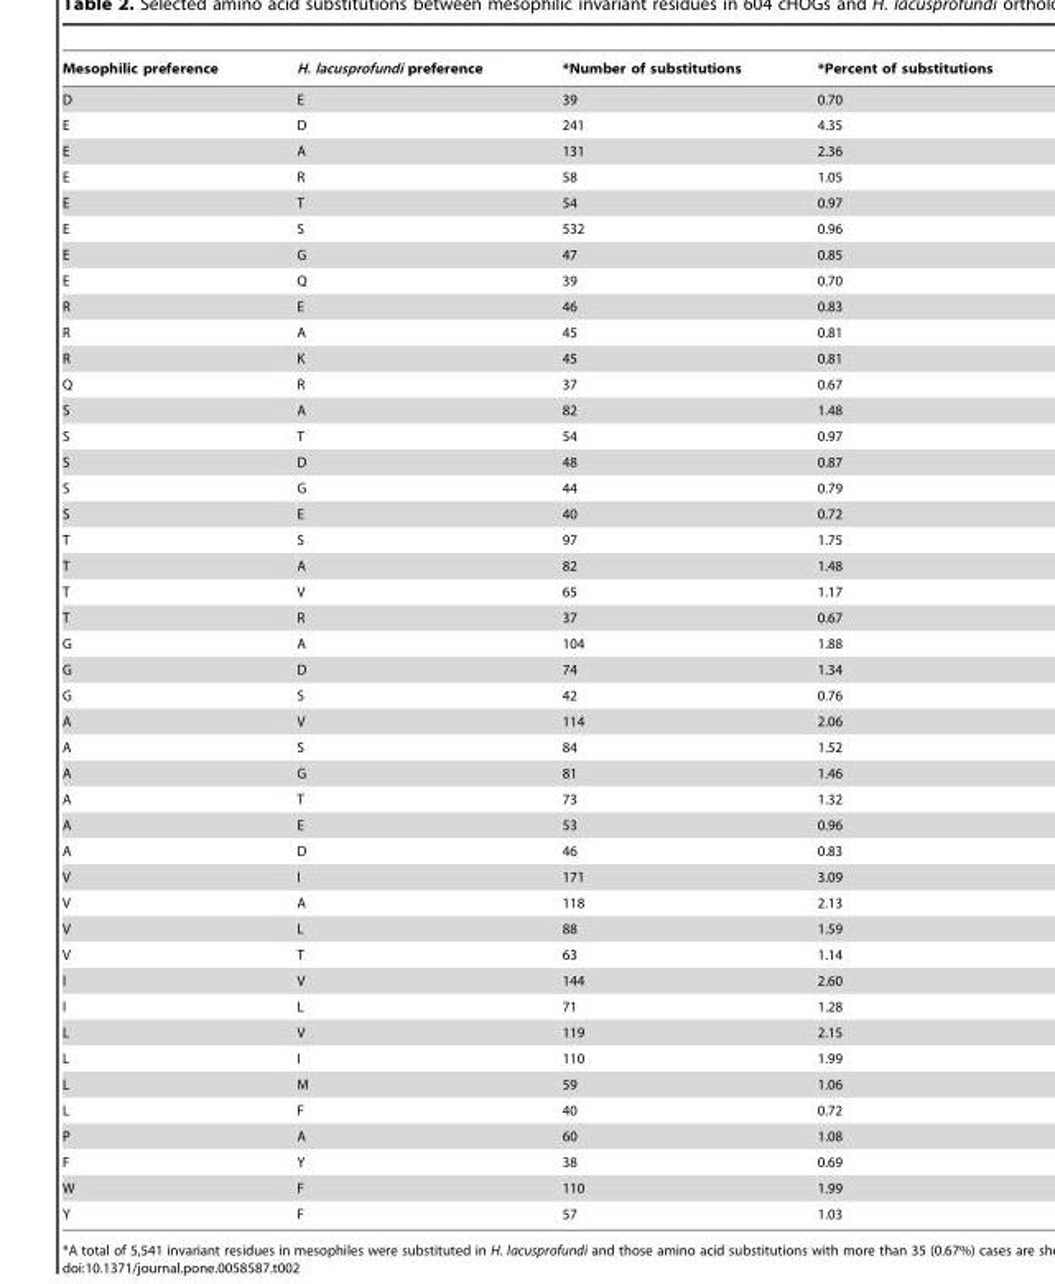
<table><thead><tr><td>Mesophilic preference</td><td>H. lacusprofundi preference</td><td>*Number of substitutions</td><td>*Percent of substitutions</td></tr></thead><tbody><tr><td>D</td><td>E</td><td>39</td><td>0.70</td></tr><tr><td>E</td><td>D</td><td>241</td><td>4.35</td></tr><tr><td>E</td><td>A</td><td>131</td><td>2.36</td></tr><tr><td>E</td><td>R</td><td>58</td><td>1.05</td></tr><tr><td>E</td><td>T</td><td>54</td><td>0.97</td></tr><tr><td>E</td><td>S</td><td>532</td><td>0.96</td></tr><tr><td>E</td><td>G</td><td>47</td><td>0.85</td></tr><tr><td>E</td><td>Q</td><td>39</td><td>0.70</td></tr><tr><td>R</td><td>E</td><td>46</td><td>0.83</td></tr><tr><td>R</td><td>A</td><td>45</td><td>0.81</td></tr><tr><td>R</td><td>K</td><td>45</td><td>0.81</td></tr><tr><td>Q</td><td>R</td><td>37</td><td>0.67</td></tr><tr><td>S</td><td>A</td><td>82</td><td>1.48</td></tr><tr><td>S</td><td>T</td><td>54</td><td>0.97</td></tr><tr><td>S</td><td>D</td><td>48</td><td>0.87</td></tr><tr><td>S</td><td>G</td><td>44</td><td>0.79</td></tr><tr><td>S</td><td>E</td><td>40</td><td>0.72</td></tr><tr><td>T</td><td>S</td><td>97</td><td>1.75</td></tr><tr><td>T</td><td>A</td><td>82</td><td>1.48</td></tr><tr><td>T</td><td>V</td><td>65</td><td>1.17</td></tr><tr><td>T</td><td>R</td><td>37</td><td>0.67</td></tr><tr><td>G</td><td>A</td><td>104</td><td>1.88</td></tr><tr><td>G</td><td>D</td><td>74</td><td>1.34</td></tr><tr><td>G</td><td>S</td><td>42</td><td>0.76</td></tr><tr><td>A</td><td>V</td><td>114</td><td>2.06</td></tr><tr><td>A</td><td>S</td><td>84</td><td>1.52</td></tr><tr><td>A</td><td>G</td><td>81</td><td>1.46</td></tr><tr><td>A</td><td>T</td><td>73</td><td>1.32</td></tr><tr><td>A</td><td>E</td><td>53</td><td>0.96</td></tr><tr><td>A</td><td>D</td><td>46</td><td>0.83</td></tr><tr><td>V</td><td>I</td><td>171</td><td>3.09</td></tr><tr><td>V</td><td>A</td><td>118</td><td>2.13</td></tr><tr><td>V</td><td>L</td><td>88</td><td>1.59</td></tr><tr><td>V</td><td>T</td><td>63</td><td>1.14</td></tr><tr><td>I</td><td>V</td><td>144</td><td>2.60</td></tr><tr><td>I</td><td>L</td><td>71</td><td>1.28</td></tr><tr><td>L</td><td>V</td><td>119</td><td>2.15</td></tr><tr><td>L</td><td>I</td><td>110</td><td>1.99</td></tr><tr><td>L</td><td>M</td><td>59</td><td>1.06</td></tr><tr><td>L</td><td>F</td><td>40</td><td>0.72</td></tr><tr><td>P</td><td>A</td><td>60</td><td>1.08</td></tr><tr><td>F</td><td>Y</td><td>38</td><td>0.69</td></tr><tr><td>W</td><td>F</td><td>110</td><td>1.99</td></tr><tr><td>Y</td><td>F</td><td>57</td><td>1.03</td></tr></tbody></table>